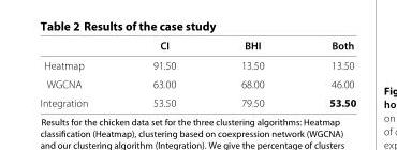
<table><thead><tr><td></td><td>CI</td><td>BHI</td><td>Both</td></tr></thead><tbody><tr><td>Heatmap</td><td>91.50</td><td>13.50</td><td>13.50</td></tr><tr><td>WGCNA</td><td>63.00</td><td>68.00</td><td>46.00</td></tr><tr><td>Integration</td><td>53.50</td><td>79.50</td><td>53.50</td></tr></tbody></table>